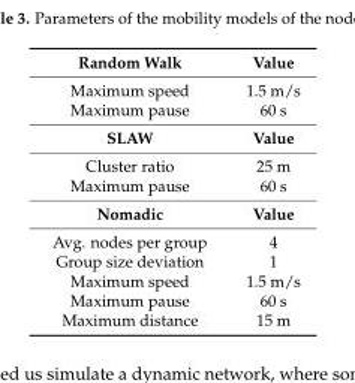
<table><tbody><tr><td>Random Walk</td><td>Value</td></tr><tr><td>Maximum speed</td><td>1.5 m/s</td></tr><tr><td>Maximum pause</td><td>60 s</td></tr><tr><td>SLAW</td><td>Value</td></tr><tr><td>Cluster ratio</td><td>25 m</td></tr><tr><td>Maximum pause</td><td>60 s</td></tr><tr><td>Nomadic</td><td>Value</td></tr><tr><td>Avg. nodes per group</td><td>4</td></tr><tr><td>Group size deviation</td><td>1</td></tr><tr><td>Maximum speed</td><td>1.5 m/s</td></tr><tr><td>Maximum pause</td><td>60 s</td></tr><tr><td>Maximum distance</td><td>15 m</td></tr></tbody></table>